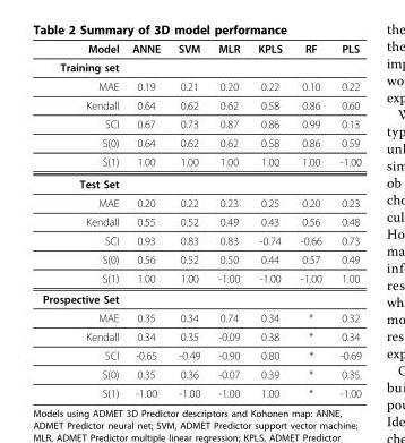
<table><thead><tr><td>Model</td><td>ANNE</td><td>SVM</td><td>MLR</td><td>KPLS</td><td>RF</td><td>PLS</td></tr></thead><tbody><tr><td colspan="7">Training set</td></tr><tr><td>MAE</td><td>0.19</td><td>0.21</td><td>0.20</td><td>0.22</td><td>0.10</td><td>0.22</td></tr><tr><td>Kendall</td><td>0.64</td><td>0.62</td><td>0.62</td><td>0.58</td><td>0.86</td><td>0.60</td></tr><tr><td>SCI</td><td>0.67</td><td>0.73</td><td>0.87</td><td>0.86</td><td>0.99</td><td>0.13</td></tr><tr><td>S(0)</td><td>0.64</td><td>0.62</td><td>0.62</td><td>0.58</td><td>0.86</td><td>0.59</td></tr><tr><td>S(1)</td><td>1.00</td><td>1.00</td><td>1.00</td><td>1.00</td><td>1.00</td><td>-1.00</td></tr><tr><td colspan="7">Test Set</td></tr><tr><td>MAE</td><td>0.20</td><td>0.22</td><td>0.23</td><td>0.25</td><td>0.20</td><td>0.23</td></tr><tr><td>Kendall</td><td>0.55</td><td>0.52</td><td>0.49</td><td>0.43</td><td>0.56</td><td>0.48</td></tr><tr><td>SCI</td><td>0.93</td><td>0.83</td><td>0.83</td><td>-0.74</td><td>-0.66</td><td>0.73</td></tr><tr><td>S(0)</td><td>0.56</td><td>0.52</td><td>0.50</td><td>0.44</td><td>0.57</td><td>0.49</td></tr><tr><td>S(1)</td><td>1.00</td><td>1.00</td><td>-1.00</td><td>-1.00</td><td>-1.00</td><td>1.00</td></tr><tr><td colspan="7">Prospective Set</td></tr><tr><td>MAE</td><td>0.35</td><td>0.34</td><td>0.74</td><td>0.34</td><td>*</td><td>0.32</td></tr><tr><td>Kendall</td><td>0.34</td><td>0.35</td><td>-0.09</td><td>0.38</td><td>*</td><td>0.34</td></tr><tr><td>SCI</td><td>-0.65</td><td>-0.49</td><td>-0.90</td><td>0.80</td><td>*</td><td>-0.69</td></tr><tr><td>S(0)</td><td>0.35</td><td>0.36</td><td>-0.07</td><td>0.39</td><td>*</td><td>0.35</td></tr><tr><td>S(1)</td><td>-1.00</td><td>-1.00</td><td>-1.00</td><td>1.00</td><td>*</td><td>-1.00</td></tr></tbody></table>